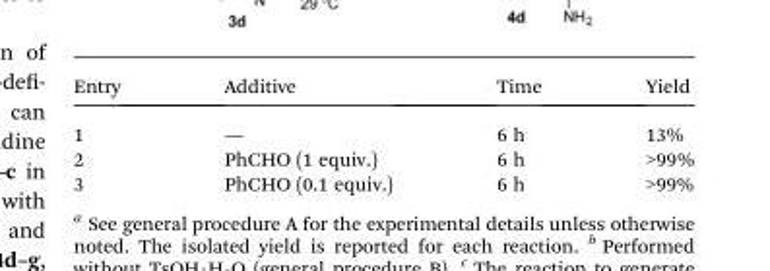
<table><thead><tr><td>Entry</td><td>Additive</td><td>Time</td><td>Yield</td></tr></thead><tbody><tr><td>1</td><td>—</td><td>6 h</td><td>13%</td></tr><tr><td>2</td><td>PhCHO (1 equiv.)</td><td>6 h</td><td>&gt;99%</td></tr><tr><td>3</td><td>PhCHO (0.1 equiv.)</td><td>6 h</td><td>&gt;99%</td></tr></tbody></table>